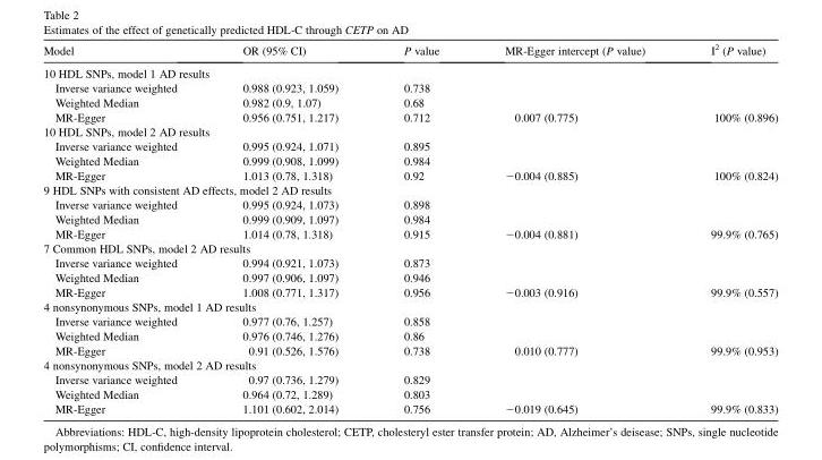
<table><thead><tr><td>Model</td><td>OR (95% CI)</td><td>P value</td><td>MR-Egger intercept (P value)</td><td>I<sup>2</sup> (P value)</td></tr></thead><tbody><tr><td colspan="5">10 HDL SNPs, model 1 AD results</td></tr><tr><td>Inverse variance weighted</td><td>0.988 (0.923, 1.059)</td><td>0.738</td><td></td><td></td></tr><tr><td>Weighted Median</td><td>0.982 (0.9, 1.07)</td><td>0.68</td><td></td><td></td></tr><tr><td>MR-Egger</td><td>0.956 (0.751, 1.217)</td><td>0.712</td><td>0.007 (0.775)</td><td>100% (0.896)</td></tr><tr><td colspan="5">10 HDL SNPs, model 2 AD results</td></tr><tr><td>Inverse variance weighted</td><td>0.995 (0.924, 1.071)</td><td>0.895</td><td></td><td></td></tr><tr><td>Weighted Median</td><td>0.999 (0.908, 1.099)</td><td>0.984</td><td></td><td></td></tr><tr><td>MR-Egger</td><td>1.013 (0.78, 1.318)</td><td>0.92</td><td>−0.004 (0.885)</td><td>100% (0.824)</td></tr><tr><td colspan="5">9 HDL SNPs with consistent AD effects, model 2 AD results</td></tr><tr><td>Inverse variance weighted</td><td>0.995 (0.924, 1.073)</td><td>0.898</td><td></td><td></td></tr><tr><td>Weighted Median</td><td>0.999 (0.909, 1.097)</td><td>0.984</td><td></td><td></td></tr><tr><td>MR-Egger</td><td>1.014 (0.78, 1.318)</td><td>0.915</td><td>−0.004 (0.881)</td><td>99.9% (0.765)</td></tr><tr><td colspan="5">7 Common HDL SNPs, model 2 AD results</td></tr><tr><td>Inverse variance weighted</td><td>0.994 (0.921, 1.073)</td><td>0.873</td><td></td><td></td></tr><tr><td>Weighted Median</td><td>0.997 (0.906, 1.097)</td><td>0.946</td><td></td><td></td></tr><tr><td>MR-Egger</td><td>1.008 (0.771, 1.317)</td><td>0.956</td><td>−0.003 (0.916)</td><td>99.9% (0.557)</td></tr><tr><td colspan="5">4 nonsynonymous SNPs, model 1 AD results</td></tr><tr><td>Inverse variance weighted</td><td>0.977 (0.76, 1.257)</td><td>0.858</td><td></td><td></td></tr><tr><td>Weighted Median</td><td>0.976 (0.746, 1.276)</td><td>0.86</td><td></td><td></td></tr><tr><td>MR-Egger</td><td>0.91 (0.526, 1.576)</td><td>0.738</td><td>0.010 (0.777)</td><td>99.9% (0.953)</td></tr><tr><td colspan="5">4 nonsynonymous SNPs, model 2 AD results</td></tr><tr><td>Inverse variance weighted</td><td>0.97 (0.736, 1.279)</td><td>0.829</td><td></td><td></td></tr><tr><td>Weighted Median</td><td>0.964 (0.72, 1.289)</td><td>0.803</td><td></td><td></td></tr><tr><td>MR-Egger</td><td>1.101 (0.602, 2.014)</td><td>0.756</td><td>−0.019 (0.645)</td><td>99.9% (0.833)</td></tr></tbody></table>